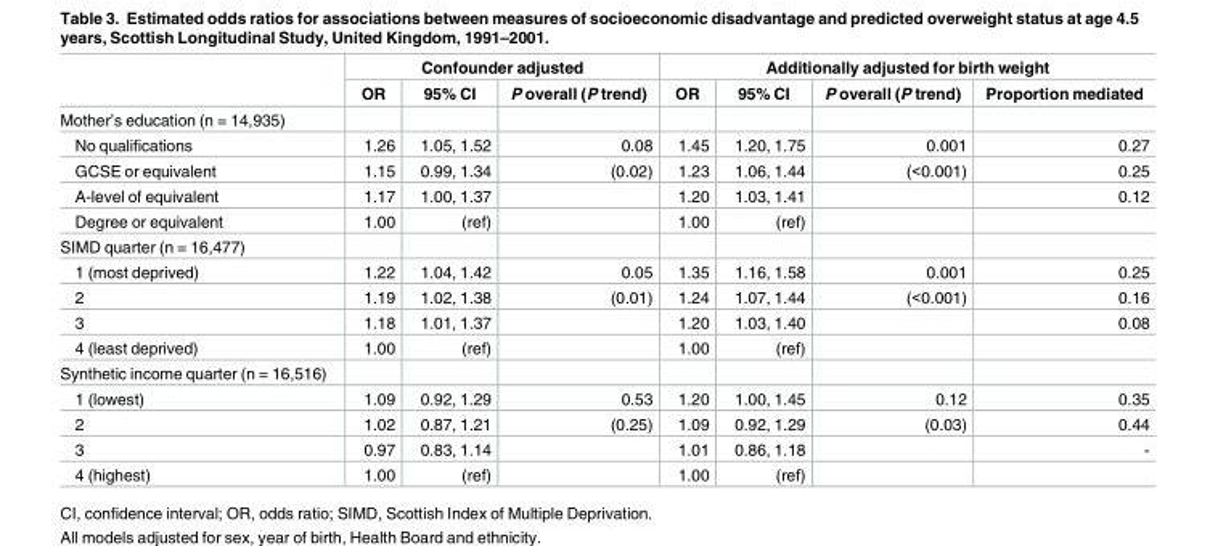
<table><thead><tr><td rowspan="2"></td><td colspan="3">Confounder adjusted</td><td colspan="4">Additionally adjusted for birth weight</td></tr><tr><td>OR</td><td>95% CI</td><td>P overall (P trend)</td><td>OR</td><td>95% CI</td><td>P overall (P trend)</td><td>Proportion mediated</td></tr></thead><tbody><tr><td colspan="8">Mother’s education (n = 14,935)</td></tr><tr><td>No qualifications</td><td>1.26</td><td>1.05, 1.52</td><td>0.08</td><td>1.45</td><td>1.20, 1.75</td><td>0.001</td><td>0.27</td></tr><tr><td>GCSE or equivalent</td><td>1.15</td><td>0.99, 1.34</td><td>(0.02)</td><td>1.23</td><td>1.06, 1.44</td><td>(&lt;0.001)</td><td>0.25</td></tr><tr><td>A-level of equivalent</td><td>1.17</td><td>1.00, 1.37</td><td></td><td>1.20</td><td>1.03, 1.41</td><td></td><td>0.12</td></tr><tr><td>Degree or equivalent</td><td>1.00</td><td>(ref)</td><td></td><td>1.00</td><td>(ref)</td><td></td><td></td></tr><tr><td colspan="8">SIMD quarter (n = 16,477)</td></tr><tr><td>1 (most deprived)</td><td>1.22</td><td>1.04, 1.42</td><td>0.05</td><td>1.35</td><td>1.16, 1.58</td><td>0.001</td><td>0.25</td></tr><tr><td>2</td><td>1.19</td><td>1.02, 1.38</td><td>(0.01)</td><td>1.24</td><td>1.07, 1.44</td><td>(&lt;0.001)</td><td>0.16</td></tr><tr><td>3</td><td>1.18</td><td>1.01, 1.37</td><td></td><td>1.20</td><td>1.03, 1.40</td><td></td><td>0.08</td></tr><tr><td>4 (least deprived)</td><td>1.00</td><td>(ref)</td><td></td><td>1.00</td><td>(ref)</td><td></td><td></td></tr><tr><td colspan="8">Synthetic income quarter (n = 16,516)</td></tr><tr><td>1 (lowest)</td><td>1.09</td><td>0.92, 1.29</td><td>0.53</td><td>1.20</td><td>1.00, 1.45</td><td>0.12</td><td>0.35</td></tr><tr><td>2</td><td>1.02</td><td>0.87, 1.21</td><td>(0.25)</td><td>1.09</td><td>0.92, 1.29</td><td>(0.03)</td><td>0.44</td></tr><tr><td>3</td><td>0.97</td><td>0.83, 1.14</td><td></td><td>1.01</td><td>0.86, 1.18</td><td></td><td>-</td></tr><tr><td>4 (highest)</td><td>1.00</td><td>(ref)</td><td></td><td>1.00</td><td>(ref)</td><td></td><td></td></tr></tbody></table>